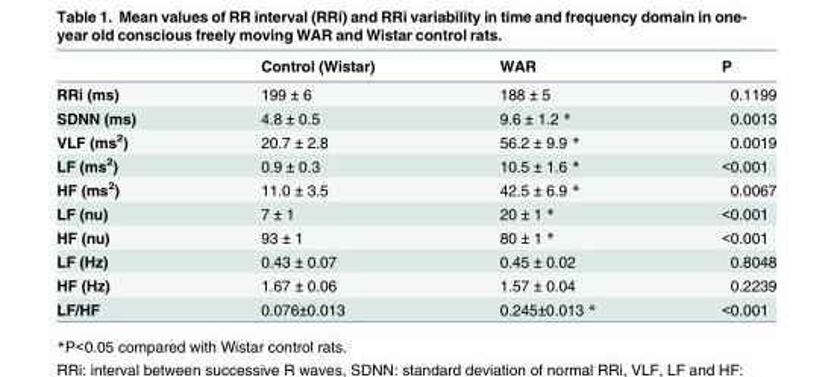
<table><thead><tr><td></td><td>Control (Wistar)</td><td>WAR</td><td>P</td></tr></thead><tbody><tr><td>RRi (ms)</td><td>199 ± 6</td><td>188 ± 5</td><td>0.1199</td></tr><tr><td>SDNN (ms)</td><td>4.8 ± 0.5</td><td>9.6 ± 1.2 *</td><td>0.0013</td></tr><tr><td>VLF (ms<sup>2</sup>)</td><td>20.7 ± 2.8</td><td>56.2 ± 9.9 *</td><td>0.0019</td></tr><tr><td>LF (ms<sup>2</sup>)</td><td>0.9 ± 0.3</td><td>10.5 ± 1.6 *</td><td>&lt;0.001</td></tr><tr><td>HF (ms<sup>2</sup>)</td><td>11.0 ± 3.5</td><td>42.5 ± 6.9 *</td><td>0.0067</td></tr><tr><td>LF (nu)</td><td>7 ± 1</td><td>20 ± 1 *</td><td>&lt;0.001</td></tr><tr><td>HF (nu)</td><td>93 ± 1</td><td>80 ± 1 *</td><td>&lt;0.001</td></tr><tr><td>LF (Hz)</td><td>0.43 ± 0.07</td><td>0.45 ± 0.02</td><td>0.8048</td></tr><tr><td>HF (Hz)</td><td>1.67 ± 0.06</td><td>1.57 ± 0.04</td><td>0.2239</td></tr><tr><td>LF/HF</td><td>0.076±0.013</td><td>0.245±0.013 *</td><td>&lt;0.001</td></tr></tbody></table>